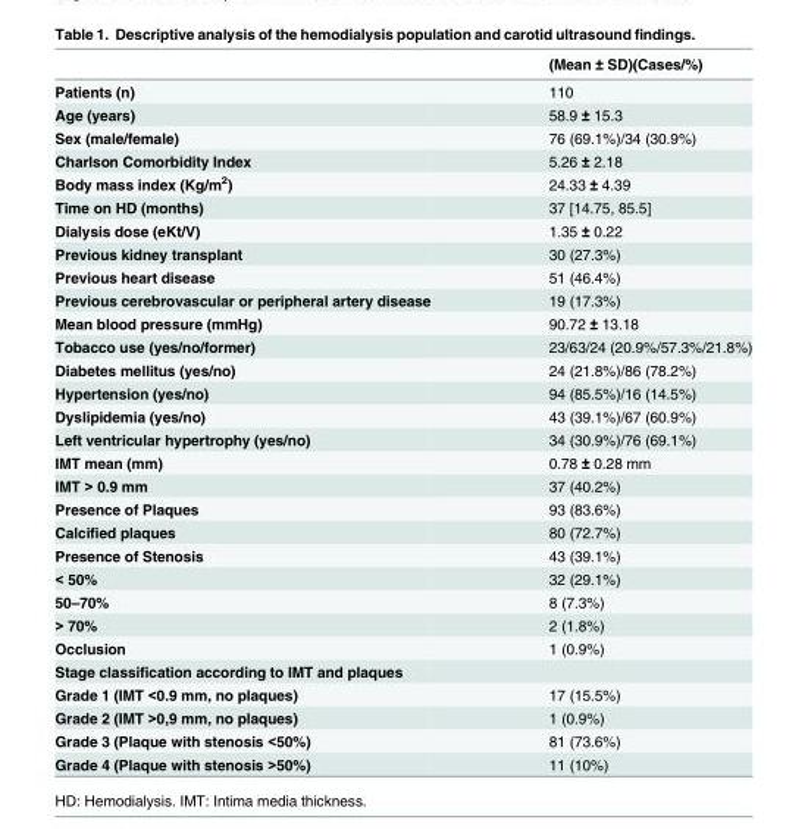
<table><thead><tr><td></td><td>(Mean ± SD)(Cases/%)</td></tr></thead><tbody><tr><td>Patients (n)</td><td>110</td></tr><tr><td>Age (years)</td><td>58.9 ± 15.3</td></tr><tr><td>Sex (male/female)</td><td>76 (69.1%)/34 (30.9%)</td></tr><tr><td>Charlson Comorbidity Index</td><td>5.26 ± 2.18</td></tr><tr><td>Body mass index (Kg/m<sup>2</sup>)</td><td>24.33 ± 4.39</td></tr><tr><td>Time on HD (months)</td><td>37 [14.75, 85.5]</td></tr><tr><td>Dialysis dose (eKt/V)</td><td>1.35 ± 0.22</td></tr><tr><td>Previous kidney transplant</td><td>30 (27.3%)</td></tr><tr><td>Previous heart disease</td><td>51 (46.4%)</td></tr><tr><td>Previous cerebrovascular or peripheral artery disease</td><td>19 (17.3%)</td></tr><tr><td>Mean blood pressure (mmHg)</td><td>90.72 ± 13.18</td></tr><tr><td>Tobacco use (yes/no/former)</td><td>23/63/24 (20.9%/57.3%/21.8%)</td></tr><tr><td>Diabetes mellitus (yes/no)</td><td>24 (21.8%)/86 (78.2%)</td></tr><tr><td>Hypertension (yes/no)</td><td>94 (85.5%)/16 (14.5%)</td></tr><tr><td>Dyslipidemia (yes/no)</td><td>43 (39.1%)/67 (60.9%)</td></tr><tr><td>Left ventricular hypertrophy (yes/no)</td><td>34 (30.9%)/76 (69.1%)</td></tr><tr><td>IMT mean (mm)</td><td>0.78 ± 0.28 mm</td></tr><tr><td>IMT &gt; 0.9 mm</td><td>37 (40.2%)</td></tr><tr><td>Presence of Plaques</td><td>93 (83.6%)</td></tr><tr><td>Calcified plaques</td><td>80 (72.7%)</td></tr><tr><td>Presence of Stenosis</td><td>43 (39.1%)</td></tr><tr><td>&lt; 50%</td><td>32 (29.1%)</td></tr><tr><td>50–70%</td><td>8 (7.3%)</td></tr><tr><td>&gt; 70%</td><td>2 (1.8%)</td></tr><tr><td>Occlusion</td><td>1 (0.9%)</td></tr><tr><td colspan="2">Stage classification according to IMT and plaques</td></tr><tr><td>Grade 1 (IMT &lt;0.9 mm, no plaques)</td><td>17 (15.5%)</td></tr><tr><td>Grade 2 (IMT &gt;0,9 mm, no plaques)</td><td>1 (0.9%)</td></tr><tr><td>Grade 3 (Plaque with stenosis &lt;50%)</td><td>81 (73.6%)</td></tr><tr><td>Grade 4 (Plaque with stenosis &gt;50%)</td><td>11 (10%)</td></tr></tbody></table>